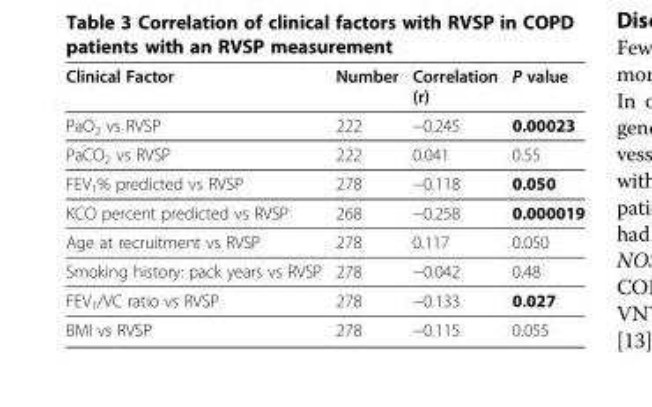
<table><thead><tr><td>Clinical Factor</td><td>Number</td><td>Correlation (r)</td><td>P value</td></tr></thead><tbody><tr><td>PaO<sub>2</sub> vs RVSP</td><td>222</td><td>−0.245</td><td>0.00023</td></tr><tr><td>PaCO<sub>2</sub> vs RVSP</td><td>222</td><td>0.041</td><td>0.55</td></tr><tr><td>FEV<sub>1</sub>% predicted vs RVSP</td><td>278</td><td>−0.118</td><td>0.050</td></tr><tr><td>KCO percent predicted vs RVSP</td><td>268</td><td>−0.258</td><td>0.000019</td></tr><tr><td>Age at recruitment vs RVSP</td><td>278</td><td>0.117</td><td>0.050</td></tr><tr><td>Smoking history: pack years vs RVSP</td><td>278</td><td>−0.042</td><td>0.48</td></tr><tr><td>FEV<sub>1</sub>/VC ratio vs RVSP</td><td>278</td><td>−0.133</td><td>0.027</td></tr><tr><td>BMI vs RVSP</td><td>278</td><td>−0.115</td><td>0.055</td></tr></tbody></table>